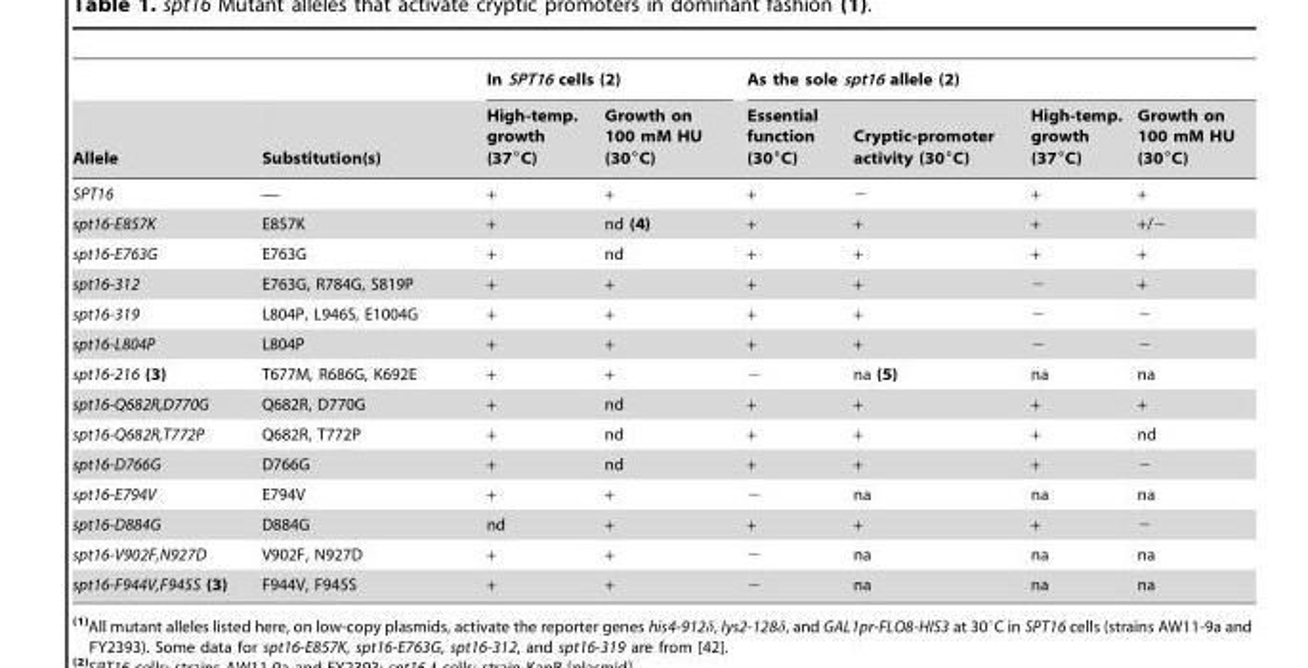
<table><thead><tr><td rowspan="2">Allele</td><td rowspan="2">Substitution(s)</td><td colspan="2">In SPT16 cells (2)</td><td colspan="4">As the sole spt16 allele (2)</td></tr><tr><td>High-temp. growth (37°C)</td><td>Growth on 100 mM HU (30°C)</td><td>Essential function (30°C)</td><td>Cryptic-promoter activity (30°C)</td><td>High-temp. growth (37°C)</td><td>Growth on 100 mM HU (30°C)</td></tr></thead><tbody><tr><td>SPT16</td><td>—</td><td>+</td><td>+</td><td>+</td><td>−</td><td>+</td><td>+</td></tr><tr><td>spt16-E857K</td><td>E857K</td><td>+</td><td>nd (4)</td><td>+</td><td>+</td><td>+</td><td>+/−</td></tr><tr><td>spt16-E763G</td><td>E763G</td><td>+</td><td>nd</td><td>+</td><td>+</td><td>+</td><td>+</td></tr><tr><td>spt16-312</td><td>E763G, R784G, S819P</td><td>+</td><td>+</td><td>+</td><td>+</td><td>−</td><td>+</td></tr><tr><td>spt16-319</td><td>L804P, L946S, E1004G</td><td>+</td><td>+</td><td>+</td><td>+</td><td>−</td><td>−</td></tr><tr><td>spt16-L804P</td><td>L804P</td><td>+</td><td>+</td><td>+</td><td>+</td><td>−</td><td>−</td></tr><tr><td>spt16-216 (3)</td><td>T677M, R686G, K692E</td><td>+</td><td>+</td><td>−</td><td>na (5)</td><td>na</td><td>na</td></tr><tr><td>spt16-Q682R,D770G</td><td>Q682R, D770G</td><td>+</td><td>nd</td><td>+</td><td>+</td><td>+</td><td>+</td></tr><tr><td>spt16-Q682R,T772P</td><td>Q682R, T772P</td><td>+</td><td>nd</td><td>+</td><td>+</td><td>+</td><td>nd</td></tr><tr><td>spt16-D766G</td><td>D766G</td><td>+</td><td>nd</td><td>+</td><td>+</td><td>+</td><td>−</td></tr><tr><td>spt16-E794V</td><td>E794V</td><td>+</td><td>+</td><td>−</td><td>na</td><td>na</td><td>na</td></tr><tr><td>spt16-D884G</td><td>D884G</td><td>nd</td><td>+</td><td>+</td><td>+</td><td>+</td><td>−</td></tr><tr><td>spt16-V902F,N927D</td><td>V902F, N927D</td><td>+</td><td>+</td><td>−</td><td>na</td><td>na</td><td>na</td></tr><tr><td>spt16-F944V,F945S (3)</td><td>F944V, F945S</td><td>+</td><td>+</td><td>−</td><td>na</td><td>na</td><td>na</td></tr></tbody></table>